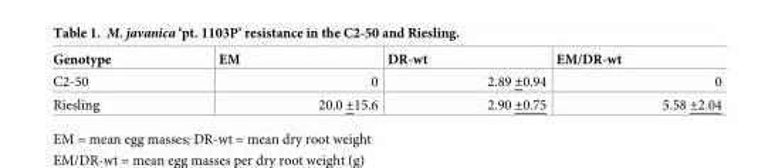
<table><thead><tr><td>Genotype</td><td>EM</td><td>DR-wt</td><td>EM/DR-wt</td></tr></thead><tbody><tr><td>C2-50</td><td>0</td><td>2.89 ±0.94</td><td>0</td></tr><tr><td>Riesling</td><td>20.0 ±15.6</td><td>2.90 ±0.75</td><td>5.58 ±2.04</td></tr></tbody></table>